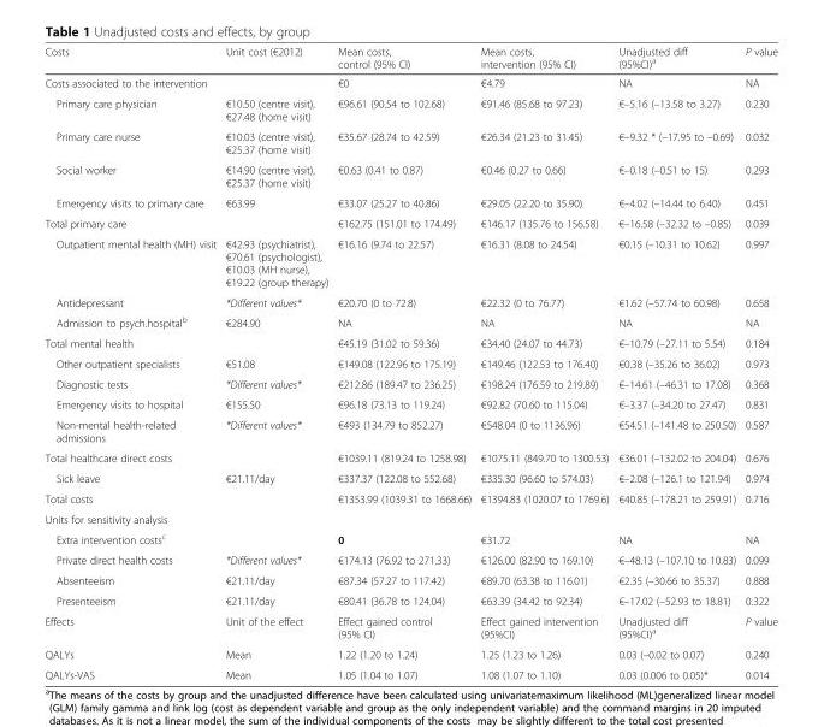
<table><thead><tr><td>Costs</td><td>Unit cost (€2012)</td><td>Mean costs, control (95% CI)</td><td>Mean costs, intervention (95% CI)</td><td>Unadjusted diff (95%CI)<sup>a</sup></td><td>P value</td></tr></thead><tbody><tr><td>Costs associated to the intervention</td><td></td><td>€0</td><td>€4.79</td><td>NA</td><td>NA</td></tr><tr><td>Primary care physician</td><td>€10.50 (centre visit), €27.48 (home visit)</td><td>€96.61 (90.54 to 102.68)</td><td>€91.46 (85.68 to 97.23)</td><td>€–5.16 (–13.58 to 3.27)</td><td>0.230</td></tr><tr><td>Primary care nurse</td><td>€10.03 (centre visit), €25.37 (home visit)</td><td>€35.67 (28.74 to 42.59)</td><td>€26.34 (21.23 to 31.45)</td><td>€–9.32 * (–17.95 to –0.69)</td><td>0.032</td></tr><tr><td>Social worker</td><td>€14.90 (centre visit), €25.37 (home visit)</td><td>€0.63 (0.41 to 0.87)</td><td>€0.46 (0.27 to 0.66)</td><td>€–0.18 (–0.51 to 15)</td><td>0.293</td></tr><tr><td>Emergency visits to primary care</td><td>€63.99</td><td>€33.07 (25.27 to 40.86)</td><td>€29.05 (22.20 to 35.90)</td><td>€–4.02 (–14.44 to 6.40)</td><td>0.451</td></tr><tr><td>Total primary care</td><td></td><td>€162.75 (151.01 to 174.49)</td><td>€146.17 (135.76 to 156.58)</td><td>€–16.58 (–32.32 to –0.85)</td><td>0.039</td></tr><tr><td>Outpatient mental health (MH) visit</td><td>€42.93 (psychiatrist), €70.61 (psychologist), €10.03 (MH nurse), €19.22 (group therapy)</td><td>€16.16 (9.74 to 22.57)</td><td>€16.31 (8.08 to 24.54)</td><td>€0.15 (–10.31 to 10.62)</td><td>0.997</td></tr><tr><td>Antidepressant</td><td>*Different values*</td><td>€20.70 (0 to 72.8)</td><td>€22.32 (0 to 76.77)</td><td>€1.62 (–57.74 to 60.98)</td><td>0.658</td></tr><tr><td>Admission to psych.hospital<sup>b</sup></td><td>€284.90</td><td>NA</td><td>NA</td><td>NA</td><td>NA</td></tr><tr><td>Total mental health</td><td></td><td>€45.19 (31.02 to 59.36)</td><td>€34.40 (24.07 to 44.73)</td><td>€–10.79 (–27.11 to 5.54)</td><td>0.184</td></tr><tr><td>Other outpatient specialists</td><td>€51.08</td><td>€149.08 (122.96 to 175.19)</td><td>€149.46 (122.53 to 176.40)</td><td>€0.38 (–35.26 to 36.02)</td><td>0.973</td></tr><tr><td>Diagnostic tests</td><td>*Different values*</td><td>€212.86 (189.47 to 236.25)</td><td>€198.24 (176.59 to 219.89)</td><td>€–14.61 (–46.31 to 17.08)</td><td>0.368</td></tr><tr><td>Emergency visits to hospital</td><td>€155.50</td><td>€96.18 (73.13 to 119.24)</td><td>€92.82 (70.60 to 115.04)</td><td>€–3.37 (–34.20 to 27.47)</td><td>0.831</td></tr><tr><td>Non-mental health-related admissions</td><td>*Different values*</td><td>€493 (134.79 to 852.27)</td><td>€548.04 (0 to 1136.96)</td><td>€54.51 (–141.48 to 250.50)</td><td>0.587</td></tr><tr><td>Total healthcare direct costs</td><td></td><td>€1039.11 (819.24 to 1258.98)</td><td>€1075.11 (849.70 to 1300.53)</td><td>€36.01 (–132.02 to 204.04)</td><td>0.676</td></tr><tr><td>Sick leave</td><td>€21.11/day</td><td>€337.37 (122.08 to 552.68)</td><td>€335.30 (96.60 to 574.03)</td><td>€–2.08 (–126.1 to 121.94)</td><td>0.974</td></tr><tr><td>Total costs</td><td></td><td>€1353.99 (1039.31 to 1668.66)</td><td>€1394.83 (1020.07 to 1769.6)</td><td>€40.85 (–178.21 to 259.91)</td><td>0.716</td></tr><tr><td colspan="6">Units for sensitivity analysis</td></tr><tr><td>Extra intervention costs<sup>c</sup></td><td></td><td>0</td><td>€31.72</td><td>NA</td><td>NA</td></tr><tr><td>Private direct health costs</td><td>*Different values*</td><td>€174.13 (76.92 to 271.33)</td><td>€126.00 (82.90 to 169.10)</td><td>€–48.13 (–107.10 to 10.83)</td><td>0.099</td></tr><tr><td>Absenteeism</td><td>€21.11/day</td><td>€87.34 (57.27 to 117.42)</td><td>€89.70 (63.38 to 116.01)</td><td>€2.35 (–30.66 to 35.37)</td><td>0.888</td></tr><tr><td>Presenteeism</td><td>€21.11/day</td><td>€80.41 (36.78 to 124.04)</td><td>€63.39 (34.42 to 92.34)</td><td>€–17.02 (–52.93 to 18.81)</td><td>0.322</td></tr><tr><td>Effects</td><td>Unit of the effect</td><td>Effect gained control (95% CI)</td><td>Effect gained intervention (95%CI)</td><td>Unadjusted diff (95%CI)<sup>a</sup></td><td>P value</td></tr><tr><td>QALYs</td><td>Mean</td><td>1.22 (1.20 to 1.24)</td><td>1.25 (1.23 to 1.26)</td><td>0.03 (–0.02 to 0.07)</td><td>0.240</td></tr><tr><td>QALYs-VAS</td><td>Mean</td><td>1.05 (1.04 to 1.07)</td><td>1.08 (1.07 to 1.10)</td><td>0.03 (0.006 to 0.05)*</td><td>0.014</td></tr></tbody></table>